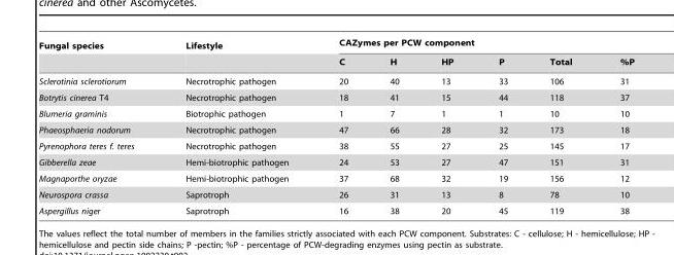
<table><thead><tr><td rowspan="2">Fungal species</td><td rowspan="2">Lifestyle</td><td colspan="6">CAZymes per PCW component</td></tr><tr><td>C</td><td>H</td><td>HP</td><td>P</td><td>Total</td><td>%P</td></tr></thead><tbody><tr><td>Sclerotinia sclerotiorum</td><td>Necrotrophic pathogen</td><td>20</td><td>40</td><td>13</td><td>33</td><td>106</td><td>31</td></tr><tr><td>Botrytis cinerea T4</td><td>Necrotrophic pathogen</td><td>18</td><td>41</td><td>15</td><td>44</td><td>118</td><td>37</td></tr><tr><td>Blumeria graminis</td><td>Biotrophic pathogen</td><td>1</td><td>7</td><td>1</td><td>1</td><td>10</td><td>10</td></tr><tr><td>Phaeosphaeria nodorum</td><td>Necrotrophic pathogen</td><td>47</td><td>66</td><td>28</td><td>32</td><td>173</td><td>18</td></tr><tr><td>Pyrenophora teres f. teres</td><td>Necrotrophic pathogen</td><td>38</td><td>55</td><td>27</td><td>25</td><td>145</td><td>17</td></tr><tr><td>Gibberella zeae</td><td>Hemi-biotrophic pathogen</td><td>24</td><td>53</td><td>27</td><td>47</td><td>151</td><td>31</td></tr><tr><td>Magnaporthe oryzae</td><td>Hemi-biotrophic pathogen</td><td>37</td><td>68</td><td>32</td><td>19</td><td>156</td><td>12</td></tr><tr><td>Neurospora crassa</td><td>Saprotroph</td><td>26</td><td>31</td><td>13</td><td>8</td><td>78</td><td>10</td></tr><tr><td>Aspergillus niger</td><td>Saprotroph</td><td>16</td><td>38</td><td>20</td><td>45</td><td>119</td><td>38</td></tr></tbody></table>